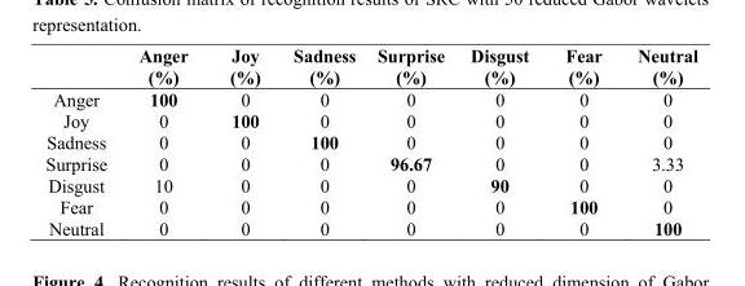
<table><thead><tr><td></td><td>Anger (%)</td><td>Joy (%)</td><td>Sadness (%)</td><td>Surprise (%)</td><td>Disgust (%)</td><td>Fear (%)</td><td>Neutral (%)</td></tr></thead><tbody><tr><td>Anger</td><td>100</td><td>0</td><td>0</td><td>0</td><td>0</td><td>0</td><td>0</td></tr><tr><td>Joy</td><td>0</td><td>100</td><td>0</td><td>0</td><td>0</td><td>0</td><td>0</td></tr><tr><td>Sadness</td><td>0</td><td>0</td><td>100</td><td>0</td><td>0</td><td>0</td><td>0</td></tr><tr><td>Surprise</td><td>0</td><td>0</td><td>0</td><td>96.67</td><td>0</td><td>0</td><td>3.33</td></tr><tr><td>Disgust</td><td>10</td><td>0</td><td>0</td><td>0</td><td>90</td><td>0</td><td>0</td></tr><tr><td>Fear</td><td>0</td><td>0</td><td>0</td><td>0</td><td>0</td><td>100</td><td>0</td></tr><tr><td>Neutral</td><td>0</td><td>0</td><td>0</td><td>0</td><td>0</td><td>0</td><td>100</td></tr></tbody></table>